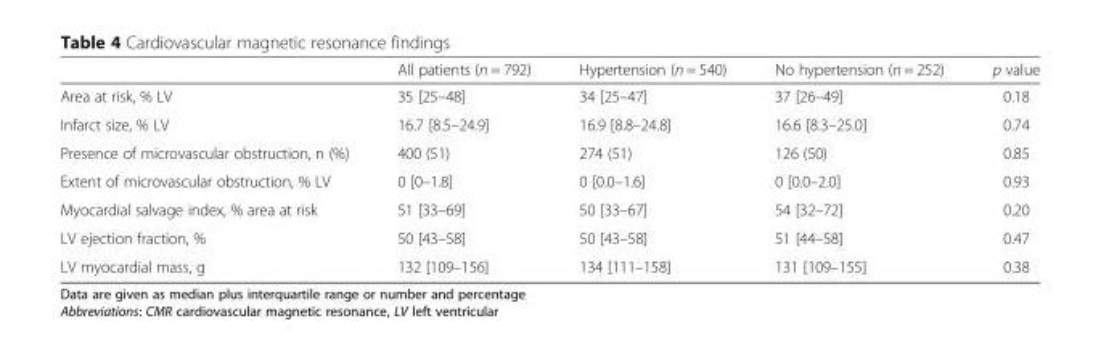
<table><thead><tr><td></td><td>All patients (n = 792)</td><td>Hypertension (n = 540)</td><td>No hypertension (n = 252)</td><td>p value</td></tr></thead><tbody><tr><td>Area at risk, % LV</td><td>35 [25–48]</td><td>34 [25–47]</td><td>37 [26–49]</td><td>0.18</td></tr><tr><td>Infarct size, % LV</td><td>16.7 [8.5–24.9]</td><td>16.9 [8.8–24.8]</td><td>16.6 [8.3–25.0]</td><td>0.74</td></tr><tr><td>Presence of microvascular obstruction, n (%)</td><td>400 (51)</td><td>274 (51)</td><td>126 (50)</td><td>0.85</td></tr><tr><td>Extent of microvascular obstruction, % LV</td><td>0 [0–1.8]</td><td>0 [0.0–1.6]</td><td>0 [0.0–2.0]</td><td>0.93</td></tr><tr><td>Myocardial salvage index, % area at risk</td><td>51 [33–69]</td><td>50 [33–67]</td><td>54 [32–72]</td><td>0.20</td></tr><tr><td>LV ejection fraction, %</td><td>50 [43–58]</td><td>50 [43–58]</td><td>51 [44–58]</td><td>0.47</td></tr><tr><td>LV myocardial mass, g</td><td>132 [109–156]</td><td>134 [111–158]</td><td>131 [109–155]</td><td>0.38</td></tr></tbody></table>